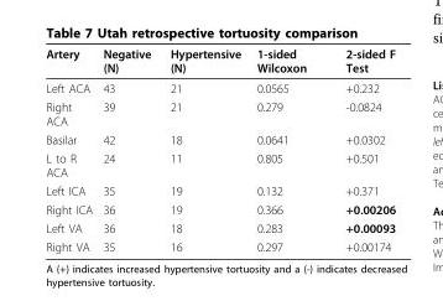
<table><thead><tr><td>Artery</td><td>Negative (N)</td><td>Hypertensive (N)</td><td>1-sided Wilcoxon</td><td>2-sided F Test</td></tr></thead><tbody><tr><td>Left ACA</td><td>43</td><td>21</td><td>0.0565</td><td>+0.232</td></tr><tr><td>Right ACA</td><td>39</td><td>21</td><td>0.279</td><td>-0.0824</td></tr><tr><td>Basilar</td><td>42</td><td>18</td><td>0.0641</td><td>+0.0302</td></tr><tr><td>L to R ACA</td><td>24</td><td>11</td><td>0.805</td><td>+0.501</td></tr><tr><td>Left ICA</td><td>35</td><td>19</td><td>0.132</td><td>+0.371</td></tr><tr><td>Right ICA</td><td>36</td><td>19</td><td>0.366</td><td>+0.00206</td></tr><tr><td>Left VA</td><td>36</td><td>18</td><td>0.283</td><td>+0.00093</td></tr><tr><td>Right VA</td><td>35</td><td>16</td><td>0.297</td><td>+0.00174</td></tr></tbody></table>